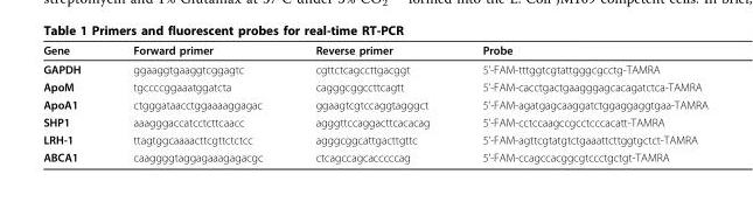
<table><thead><tr><td>Gene</td><td>Forward primer</td><td>Reverse primer</td><td>Probe</td></tr></thead><tbody><tr><td>GAPDH</td><td>ggaaggtgaaggtcggagtc</td><td>cgttctcagccttgacggt</td><td>5’-FAM-tttggtcgtattgggcgcctg-TAMRA</td></tr><tr><td>ApoM</td><td>tgccccggaaatggatcta</td><td>cagggcggccttcagtt</td><td>5’-FAM-cacctgactgaagggagcacagatctca-TAMRA</td></tr><tr><td>ApoA1</td><td>ctgggataacctggaaaaggagac</td><td>ggaagtcgtccaggtagggct</td><td>5’-FAM-agatgagcaaggatctggaggaggtgaa-TAMRA</td></tr><tr><td>SHP1</td><td>aaagggaccatcctcttcaacc</td><td>agggttccaggacttcacacag</td><td>5’-FAM-cctccaagccgcctcccacatt-TAMRA</td></tr><tr><td>LRH-1</td><td>ttagtggcaaaacttcgttctctcc</td><td>agggcggcattgacttgttc</td><td>5’-FAM-agttcgtatgtctgaaattcttggtgctct-TAMRA</td></tr><tr><td>ABCA1</td><td>caaggggtaggagaaagagacgc</td><td>ctcagccagcacccccag</td><td>5’-FAM-ccagccacggcgtccctgctgt-TAMRA</td></tr></tbody></table>